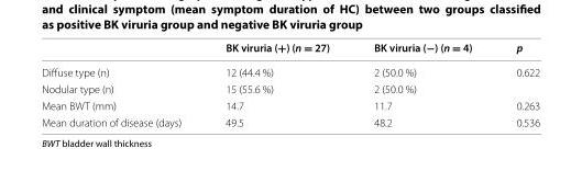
<table><thead><tr><td></td><td>BK viruria (+) (n = 27)</td><td>BK viruria (−) (n = 4)</td><td>p</td></tr></thead><tbody><tr><td>Diffuse type (n)</td><td>12 (44.4 %)</td><td>2 (50.0 %)</td><td rowspan="2">0.622</td></tr><tr><td>Nodular type (n)</td><td>15 (55.6 %)</td><td>2 (50.0 %)</td></tr><tr><td>Mean BWT (mm)</td><td>14.7</td><td>11.7</td><td>0.263</td></tr><tr><td>Mean duration of disease (days)</td><td>49.5</td><td>48.2</td><td>0.536</td></tr></tbody></table>